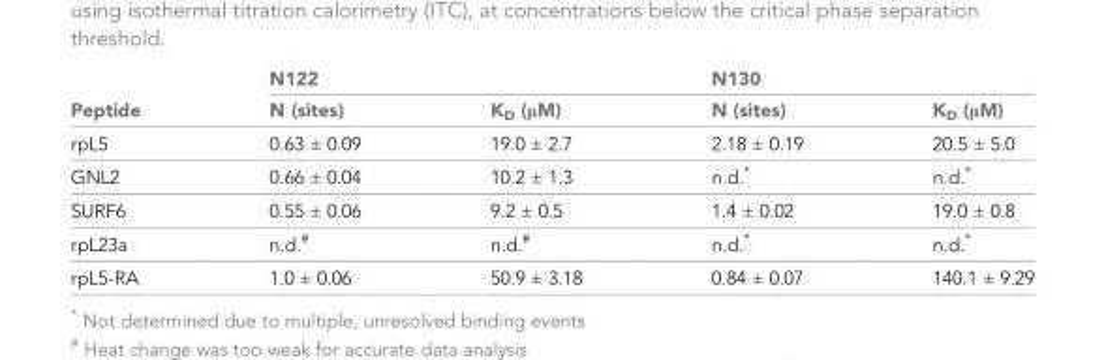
<table><thead><tr><td rowspan="2">Peptide</td><td colspan="2">N122</td><td colspan="2">N130</td></tr><tr><td>N (sites)</td><td>K<sub>D</sub> (μM)</td><td>N (sites)</td><td>K<sub>D</sub> (μM)</td></tr></thead><tbody><tr><td>rpL5</td><td>0.63 ± 0.09</td><td>19.0 ± 2.7</td><td>2.18 ± 0.19</td><td>20.5 ± 5.0</td></tr><tr><td>GNL2</td><td>0.66 ± 0.04</td><td>10.2 ± 1.3</td><td>n.d.*</td><td>n.d.*</td></tr><tr><td>SURF6</td><td>0.55 ± 0.06</td><td>9.2 ± 0.5</td><td>1.4 ± 0.02</td><td>19.0 ± 0.8</td></tr><tr><td>rpL23a</td><td>n.d.<sup>#</sup></td><td>n.d.<sup>#</sup></td><td>n.d.*</td><td>n.d.*</td></tr><tr><td>rpL5-RA</td><td>1.0 ± 0.06</td><td>50.9 ± 3.18</td><td>0.84 ± 0.07</td><td>140.1 ± 9.29</td></tr></tbody></table>